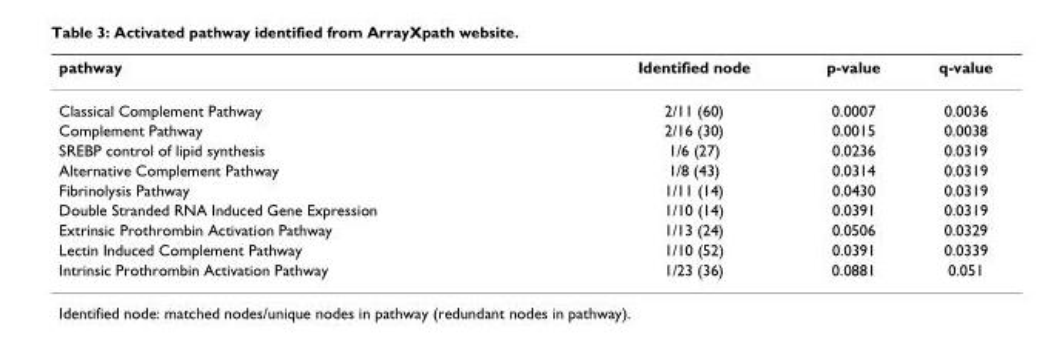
<table><thead><tr><td>pathway</td><td>Identified node</td><td>p-value</td><td>q-value</td></tr></thead><tbody><tr><td>Classical Complement Pathway</td><td>2/11 (60)</td><td>0.0007</td><td>0.0036</td></tr><tr><td>Complement Pathway</td><td>2/16 (30)</td><td>0.0015</td><td>0.0038</td></tr><tr><td>SREBP control of lipid synthesis</td><td>1/6 (27)</td><td>0.0236</td><td>0.0319</td></tr><tr><td>Alternative Complement Pathway</td><td>1/8 (43)</td><td>0.0314</td><td>0.0319</td></tr><tr><td>Fibrinolysis Pathway</td><td>1/11 (14)</td><td>0.0430</td><td>0.0319</td></tr><tr><td>Double Stranded RNA Induced Gene Expression</td><td>1/10 (14)</td><td>0.0391</td><td>0.0319</td></tr><tr><td>Extrinsic Prothrombin Activation Pathway</td><td>1/13 (24)</td><td>0.0506</td><td>0.0329</td></tr><tr><td>Lectin Induced Complement Pathway</td><td>1/10 (52)</td><td>0.0391</td><td>0.0339</td></tr><tr><td>Intrinsic Prothrombin Activation Pathway</td><td>1/23 (36)</td><td>0.0881</td><td>0.051</td></tr></tbody></table>